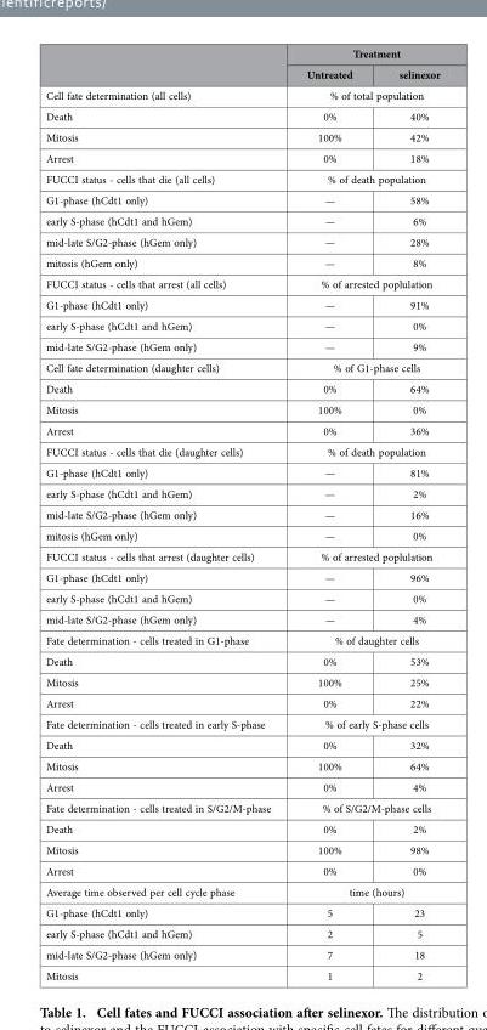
<table><thead><tr><td rowspan="2"></td><td colspan="2">Treatment</td></tr><tr><td>Untreated</td><td>selinexor</td></tr></thead><tbody><tr><td>Cell fate determination (all cells)</td><td colspan="2">% of total population</td></tr><tr><td>Death</td><td>0%</td><td>40%</td></tr><tr><td>Mitosis</td><td>100%</td><td>42%</td></tr><tr><td>Arrest</td><td>0%</td><td>18%</td></tr><tr><td>FUCCI status - cells that die (all cells)</td><td colspan="2">% of death population</td></tr><tr><td>G1-phase (hCdt1 only)</td><td>—</td><td>58%</td></tr><tr><td>early S-phase (hCdt1 and hGem)</td><td>—</td><td>6%</td></tr><tr><td>mid-late S/G2-phase (hGem only)</td><td>—</td><td>28%</td></tr><tr><td>mitosis (hGem only)</td><td>—</td><td>8%</td></tr><tr><td>FUCCI status - cells that arrest (all cells)</td><td colspan="2">% of arrested poplulation</td></tr><tr><td>G1-phase (hCdt1 only)</td><td>—</td><td>91%</td></tr><tr><td>early S-phase (hCdt1 and hGem)</td><td>—</td><td>0%</td></tr><tr><td>mid-late S/G2-phase (hGem only)</td><td>—</td><td>9%</td></tr><tr><td>Cell fate determination (daughter cells)</td><td colspan="2">% of G1-phase cells</td></tr><tr><td>Death</td><td>0%</td><td>64%</td></tr><tr><td>Mitosis</td><td>100%</td><td>0%</td></tr><tr><td>Arrest</td><td>0%</td><td>36%</td></tr><tr><td>FUCCI status - cells that die (daughter cells)</td><td colspan="2">% of death population</td></tr><tr><td>G1-phase (hCdt1 only)</td><td>—</td><td>81%</td></tr><tr><td>early S-phase (hCdt1 and hGem)</td><td>—</td><td>2%</td></tr><tr><td>mid-late S/G2-phase (hGem only)</td><td>—</td><td>16%</td></tr><tr><td>mitosis (hGem only)</td><td>—</td><td>0%</td></tr><tr><td>FUCCI status - cells that arrest (daughter cells)</td><td colspan="2">% of arrested poplulation</td></tr><tr><td>G1-phase (hCdt1 only)</td><td>—</td><td>96%</td></tr><tr><td>early S-phase (hCdt1 and hGem)</td><td>—</td><td>0%</td></tr><tr><td>mid-late S/G2-phase (hGem only)</td><td>—</td><td>4%</td></tr><tr><td>Fate determination - cells treated in G1-phase</td><td colspan="2">% of daughter cells</td></tr><tr><td>Death</td><td>0%</td><td>53%</td></tr><tr><td>Mitosis</td><td>100%</td><td>25%</td></tr><tr><td>Arrest</td><td>0%</td><td>22%</td></tr><tr><td>Fate determination - cells treated in early S-phase</td><td colspan="2">% of early S-phase cells</td></tr><tr><td>Death</td><td>0%</td><td>32%</td></tr><tr><td>Mitosis</td><td>100%</td><td>64%</td></tr><tr><td>Arrest</td><td>0%</td><td>4%</td></tr><tr><td>Fate determination - cells treated in S/G2/M-phase</td><td colspan="2">% of S/G2/M-phase cells</td></tr><tr><td>Death</td><td>0%</td><td>2%</td></tr><tr><td>Mitosis</td><td>100%</td><td>98%</td></tr><tr><td>Arrest</td><td>0%</td><td>0%</td></tr><tr><td>Average time observed per cell cycle phase</td><td colspan="2">time (hours)</td></tr><tr><td>G1-phase (hCdt1 only)</td><td>5</td><td>23</td></tr><tr><td>early S-phase (hCdt1 and hGem)</td><td>2</td><td>5</td></tr><tr><td>mid-late S/G2-phase (hGem only)</td><td>7</td><td>18</td></tr><tr><td>Mitosis</td><td>1</td><td>2</td></tr></tbody></table>